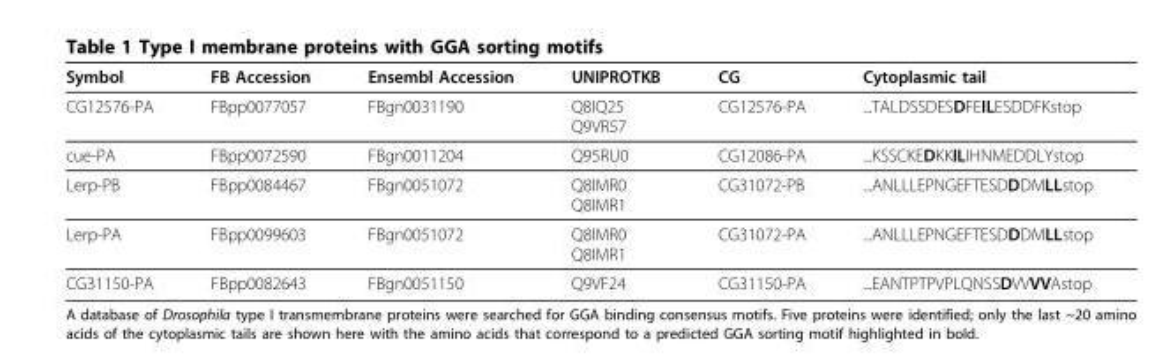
<table><thead><tr><td>Symbol</td><td>FB Accession</td><td>Ensembl Accession</td><td>UNIPROTKB</td><td>CG</td><td>Cytoplasmic tail</td></tr></thead><tbody><tr><td>CG12576-PA</td><td>FBpp0077057</td><td>FBgn0031190</td><td>Q8IQ25 Q9VR57</td><td>CG12576-PA</td><td>...TALDSSDESDFEILESDDFKstop</td></tr><tr><td>cue-PA</td><td>FBpp0072590</td><td>FBgn0011204</td><td>Q95RU0</td><td>CG12086-PA</td><td>...KSSCKEDKKILIHNMEDDLYstop</td></tr><tr><td>Lerp-PB</td><td>FBpp0084467</td><td>FBgn0051072</td><td>Q8IMR0 Q8IMR1</td><td>CG31072-PB</td><td>...ANLLLEPNGEFTESDDDMLLstop</td></tr><tr><td>Lerp-PA</td><td>FBpp0099603</td><td>FBgn0051072</td><td>Q8IMR0 Q8IMR1</td><td>CG31072-PA</td><td>...ANLLLEPNGEFTESDDDMLLstop</td></tr><tr><td>CG31150-PA</td><td>FBpp0082643</td><td>FBgn0051150</td><td>Q9VF24</td><td>CG31150-PA</td><td>...EANTPTPVPLQNSSDVVVVAstop</td></tr></tbody></table>